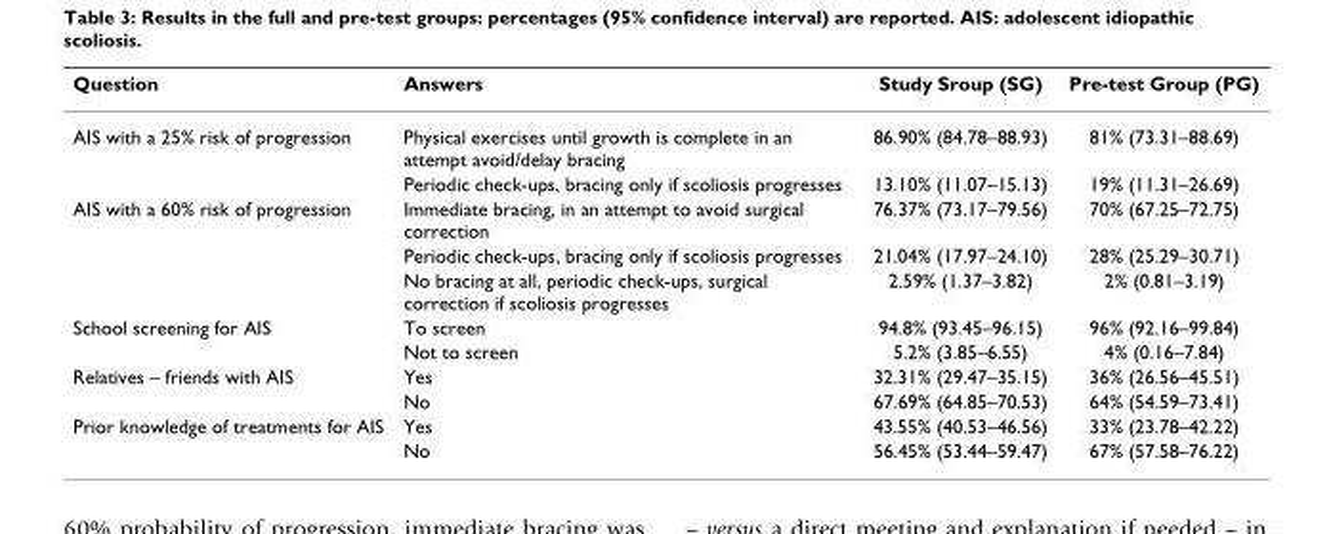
<table><thead><tr><td>Question</td><td>Answers</td><td>Study Sroup (SG)</td><td>Pre-test Group (PG)</td></tr></thead><tbody><tr><td rowspan="2">AIS with a 25% risk of progression</td><td>Physical exercises until growth is complete in an attempt avoid/delay bracing</td><td>86.90% (84.78–88.93)</td><td>81% (73.31–88.69)</td></tr><tr><td>Periodic check-ups, bracing only if scoliosis progresses</td><td>13.10% (11.07–15.13)</td><td>19% (11.31–26.69)</td></tr><tr><td rowspan="3">AIS with a 60% risk of progression</td><td>Immediate bracing, in an attempt to avoid surgical correction</td><td>76.37% (73.17–79.56)</td><td>70% (67.25–72.75)</td></tr><tr><td>Periodic check-ups, bracing only if scoliosis progresses</td><td>21.04% (17.97–24.10)</td><td>28% (25.29–30.71)</td></tr><tr><td>No bracing at all, periodic check-ups, surgical correction if scoliosis progresses</td><td>2.59% (1.37–3.82)</td><td>2% (0.81–3.19)</td></tr><tr><td rowspan="2">School screening for AIS</td><td>To screen</td><td>94.8% (93.45–96.15)</td><td>96% (92.16–99.84)</td></tr><tr><td>Not to screen</td><td>5.2% (3.85–6.55)</td><td>4% (0.16–7.84)</td></tr><tr><td rowspan="2">Relatives – friends with AIS</td><td>Yes</td><td>32.31% (29.47–35.15)</td><td>36% (26.56–45.51)</td></tr><tr><td>No</td><td>67.69% (64.85–70.53)</td><td>64% (54.59–73.41)</td></tr><tr><td rowspan="2">Prior knowledge of treatments for AIS</td><td>Yes</td><td>43.55% (40.53–46.56)</td><td>33% (23.78–42.22)</td></tr><tr><td>No</td><td>56.45% (53.44–59.47)</td><td>67% (57.58–76.22)</td></tr></tbody></table>